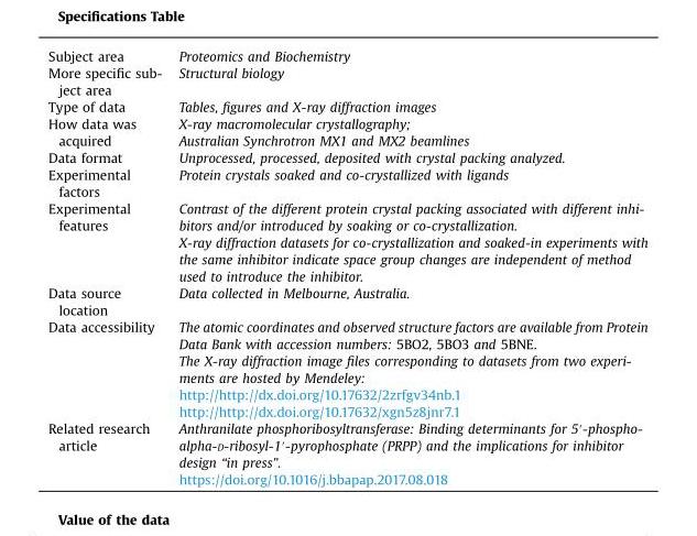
<table><tbody><tr><td>Subject area</td><td>Proteomics and Biochemistry</td></tr><tr><td>More specific sub- ject area</td><td>Structural biology</td></tr><tr><td>Type of data</td><td>Tables, figures and X-ray diffraction images</td></tr><tr><td rowspan="2">How data was acquired</td><td>X-ray macromolecular crystallography;</td></tr><tr><td>Australian Synchrotron MX1 and MX2 beamlines</td></tr><tr><td>Data format</td><td>Unprocessed, processed, deposited with crystal packing analyzed.</td></tr><tr><td>Experimental factors</td><td>Protein crystals soaked and co-crystallized with ligands</td></tr><tr><td rowspan="2">Experimental features</td><td>Contrast of the different protein crystal packing associated with different inhi- bitors and/or introduced by soaking or co-crystallization.</td></tr><tr><td>X-ray diffraction datasets for co-crystallization and soaked-in experiments with the same inhibitor indicate space group changes are independent of method used to introduce the inhibitor.</td></tr><tr><td>Data source location</td><td>Data collected in Melbourne, Australia.</td></tr><tr><td rowspan="4">Data accessibility</td><td>The atomic coordinates and observed structure factors are available from Protein Data Bank with accession numbers: 5BO2, 5BO3 and 5BNE.</td></tr><tr><td>The X-ray diffraction image files corresponding to datasets from two experi- ments are hosted by Mendeley:</td></tr><tr><td>http://http://dx.doi.org/10.17632/2zrfgv34nb.1</td></tr><tr><td>http://http://dx.doi.org/10.17632/xgn5z8jnr7.1</td></tr><tr><td rowspan="2">Related research article</td><td>Anthranilate phosphoribosyltransferase: Binding determinants for 5′-phospho- alpha-D-ribosyl-1′-pyrophosphate (PRPP) and the implications for inhibitor design “in press”.</td></tr><tr><td>https://doi.org/10.1016/j.bbapap.2017.08.018</td></tr></tbody></table>